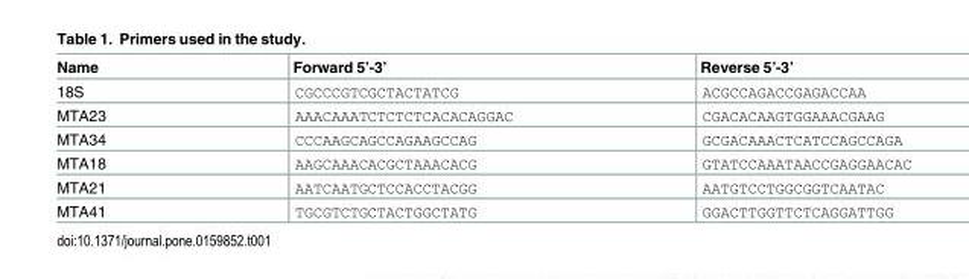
<table><thead><tr><td>Name</td><td>Forward 5’-3’</td><td>Reverse 5’-3’</td></tr></thead><tbody><tr><td>18S</td><td>CGCCCGTCGCTACTATCG</td><td>ACGCCAGACCGAGACCAA</td></tr><tr><td>MTA23</td><td>AAACAAATCTCTCTCACACAGGAC</td><td>CGACACAAGTGGAAACGAAG</td></tr><tr><td>MTA34</td><td>CCCAAGCAGCCAGAAGCCAG</td><td>GCGACAAACTCATCCAGCCAGA</td></tr><tr><td>MTA18</td><td>AAGCAAACACGCTAAACACG</td><td>GTATCCAAATAACCGAGGAACAC</td></tr><tr><td>MTA21</td><td>AATCAATGCTCCACCTACGG</td><td>AATGTCCTGGCGGTCAATAC</td></tr><tr><td>MTA41</td><td>TGCGTCTGCTACTGGCTATG</td><td>GGACTTGGTTCTCAGGATTGG</td></tr></tbody></table>